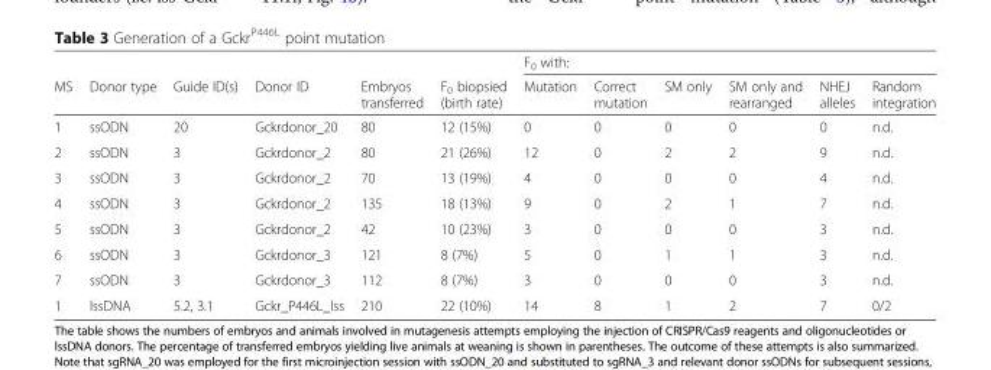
<table><thead><tr><td rowspan="2">MS</td><td rowspan="2">Donor type</td><td rowspan="2">Guide ID(s)</td><td rowspan="2">Donor ID</td><td rowspan="2">Embryos transferred</td><td rowspan="2">F<sub>0</sub> biopsied (birth rate)</td><td colspan="6">F<sub>0</sub> with:</td></tr><tr><td>Mutation</td><td>Correct mutation</td><td>SM only</td><td>SM only and rearranged</td><td>NHEJ alleles</td><td>Random integration</td></tr></thead><tbody><tr><td>1</td><td>ssODN</td><td>20</td><td>Gckrdonor_20</td><td>80</td><td>12 (15%)</td><td>0</td><td>0</td><td>0</td><td>0</td><td>0</td><td>n.d.</td></tr><tr><td>2</td><td>ssODN</td><td>3</td><td>Gckrdonor_2</td><td>80</td><td>21 (26%)</td><td>12</td><td>0</td><td>2</td><td>2</td><td>9</td><td>n.d.</td></tr><tr><td>3</td><td>ssODN</td><td>3</td><td>Gckrdonor_2</td><td>70</td><td>13 (19%)</td><td>4</td><td>0</td><td>0</td><td>0</td><td>4</td><td>n.d.</td></tr><tr><td>4</td><td>ssODN</td><td>3</td><td>Gckrdonor_2</td><td>135</td><td>18 (13%)</td><td>9</td><td>0</td><td>2</td><td>1</td><td>7</td><td>n.d.</td></tr><tr><td>5</td><td>ssODN</td><td>3</td><td>Gckrdonor_2</td><td>42</td><td>10 (23%)</td><td>3</td><td>0</td><td>0</td><td>0</td><td>3</td><td>n.d.</td></tr><tr><td>6</td><td>ssODN</td><td>3</td><td>Gckrdonor_3</td><td>121</td><td>8 (7%)</td><td>5</td><td>0</td><td>1</td><td>1</td><td>3</td><td>n.d.</td></tr><tr><td>7</td><td>ssODN</td><td>3</td><td>Gckrdonor_3</td><td>112</td><td>8 (7%)</td><td>3</td><td>0</td><td>0</td><td>0</td><td>3</td><td>n.d.</td></tr><tr><td>1</td><td>lssDNA</td><td>5.2, 3.1</td><td>Gckr_P446L_lss</td><td>210</td><td>22 (10%)</td><td>14</td><td>8</td><td>1</td><td>2</td><td>7</td><td>0/2</td></tr></tbody></table>